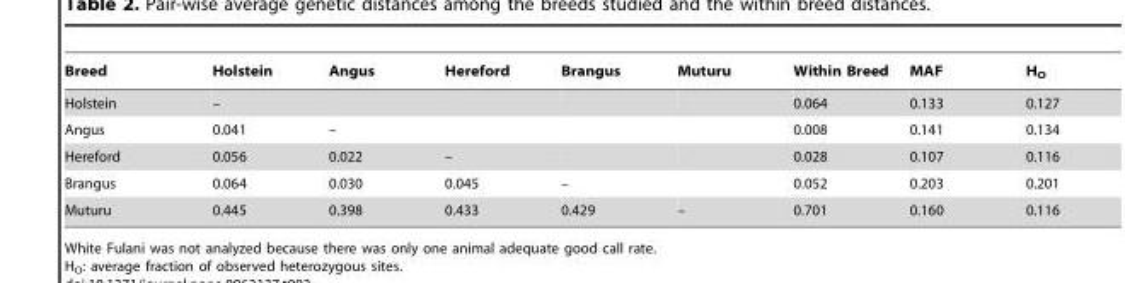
<table><thead><tr><td>Breed</td><td>Holstein</td><td>Angus</td><td>Hereford</td><td>Brangus</td><td>Muturu</td><td>Within Breed</td><td>MAF</td><td>H<sub>O</sub></td></tr></thead><tbody><tr><td>Holstein</td><td>–</td><td></td><td></td><td></td><td></td><td>0.064</td><td>0.133</td><td>0.127</td></tr><tr><td>Angus</td><td>0.041</td><td>–</td><td></td><td></td><td></td><td>0.008</td><td>0.141</td><td>0.134</td></tr><tr><td>Hereford</td><td>0.056</td><td>0.022</td><td>–</td><td></td><td></td><td>0.028</td><td>0.107</td><td>0.116</td></tr><tr><td>Brangus</td><td>0.064</td><td>0.030</td><td>0.045</td><td>–</td><td></td><td>0.052</td><td>0.203</td><td>0.201</td></tr><tr><td>Muturu</td><td>0.445</td><td>0.398</td><td>0.433</td><td>0.429</td><td>–</td><td>0.701</td><td>0.160</td><td>0.116</td></tr></tbody></table>